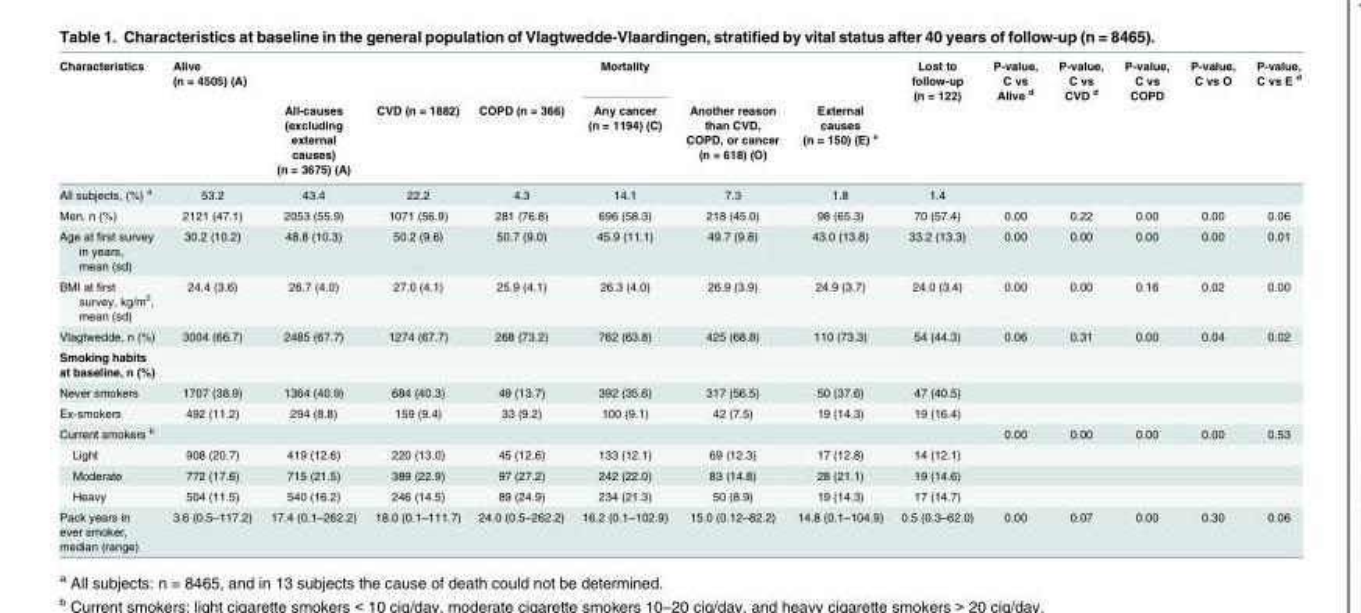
<table><thead><tr><td rowspan="2">Characteristics</td><td rowspan="2">Alive (n = 4505) (A)</td><td rowspan="2">All-causes (excluding external causes) (n = 3675) (A)</td><td rowspan="2">CVD (n = 1882)</td><td rowspan="2">COPD (n = 366)</td><td rowspan="2">Mortality Any cancer (n = 1194) (C)</td><td rowspan="2">Another reason than CVD, COPD, or cancer (n = 618) (O)</td><td rowspan="2">External causes (n = 150) (E) <sup>c</sup></td><td rowspan="2">Lost to follow-up (n = 122)</td><td rowspan="2">P-value, C vs Alive <sup>d</sup></td><td rowspan="2">P-value, C vs CVD <sup>d</sup></td><td rowspan="2">P-value, C vs COPD</td><td rowspan="2">P-value, C vs O</td><td rowspan="2">P-value, C vs E <sup>d</sup></td></tr><tr></tr></thead><tbody><tr><td>All subjects, (%) <sup>a</sup></td><td>53.2</td><td>43.4</td><td>22.2</td><td>4.3</td><td>14.1</td><td>7.3</td><td>1.8</td><td>1.4</td><td></td><td></td><td></td><td></td><td></td></tr><tr><td>Men, n (%)</td><td>2121 (47.1)</td><td>2053 (55.9)</td><td>1071 (56.9)</td><td>281 (76.8)</td><td>696 (58.3)</td><td>218 (45.0)</td><td>98 (65.3)</td><td>70 (57.4)</td><td>0.00</td><td>0.22</td><td>0.00</td><td>0.00</td><td>0.06</td></tr><tr><td>Age at first survey in years, mean (sd)</td><td>30.2 (10.2)</td><td>48.8 (10.3)</td><td>50.2 (9.6)</td><td>50.7 (9.0)</td><td>45.9 (11.1)</td><td>49.7 (9.8)</td><td>43.0 (13.8)</td><td>33.2 (13.3)</td><td>0.00</td><td>0.00</td><td>0.00</td><td>0.00</td><td>0.01</td></tr><tr><td>BMI at first survey, kg/m<sup>2</sup>, mean (sd)</td><td>24.4 (3.6)</td><td>26.7 (4.0)</td><td>27.0 (4.1)</td><td>25.9 (4.1)</td><td>26.3 (4.0)</td><td>26.9 (3.9)</td><td>24.9 (3.7)</td><td>24.0 (3.4)</td><td>0.00</td><td>0.00</td><td>0.16</td><td>0.02</td><td>0.00</td></tr><tr><td>Vlagtwedde, n (%)</td><td>3004 (66.7)</td><td>2485 (67.7)</td><td>1274 (67.7)</td><td>268 (73.2)</td><td>762 (63.8)</td><td>425 (68.8)</td><td>110 (73.3)</td><td>54 (44.3)</td><td>0.06</td><td>0.31</td><td>0.00</td><td>0.04</td><td>0.02</td></tr><tr><td colspan="14">Smoking habits at baseline, n (%)</td></tr><tr><td>Never smokers</td><td>1707 (38.9)</td><td>1364 (40.9)</td><td>684 (40.3)</td><td>49 (13.7)</td><td>392 (35.6)</td><td>317 (56.5)</td><td>50 (37.6)</td><td>47 (40.5)</td><td></td><td></td><td></td><td></td><td></td></tr><tr><td>Ex-smokers</td><td>492 (11.2)</td><td>294 (8.8)</td><td>159 (9.4)</td><td>33 (9.2)</td><td>100 (9.1)</td><td>42 (7.5)</td><td>19 (14.3)</td><td>19 (16.4)</td><td></td><td></td><td></td><td></td><td></td></tr><tr><td>Current smokers <sup>b</sup></td><td></td><td></td><td></td><td></td><td></td><td></td><td></td><td></td><td>0.00</td><td>0.00</td><td>0.00</td><td>0.00</td><td>0.53</td></tr><tr><td>Light</td><td>908 (20.7)</td><td>419 (12.6)</td><td>220 (13.0)</td><td>45 (12.6)</td><td>133 (12.1)</td><td>69 (12.3)</td><td>17 (12.8)</td><td>14 (12.1)</td><td></td><td></td><td></td><td></td><td></td></tr><tr><td>Moderate</td><td>772 (17.6)</td><td>715 (21.5)</td><td>389 (22.9)</td><td>97 (27.2)</td><td>242 (22.0)</td><td>83 (14.8)</td><td>28 (21.1)</td><td>19 (14.6)</td><td></td><td></td><td></td><td></td><td></td></tr><tr><td>Heavy</td><td>504 (11.5)</td><td>540 (16.2)</td><td>246 (14.5)</td><td>89 (24.9)</td><td>234 (21.3)</td><td>50 (8.9)</td><td>19 (14.3)</td><td>17 (14.7)</td><td></td><td></td><td></td><td></td><td></td></tr><tr><td>Pack years in ever smoker, median (range)</td><td>3.6 (0.5–117.2)</td><td>17.4 (0.1–262.2)</td><td>18.0 (0.1–111.7)</td><td>24.0 (0.5–262.2)</td><td>16.2 (0.1–102.9)</td><td>15.0 (0.12–82.2)</td><td>14.8 (0.1–104.9)</td><td>0.5 (0.3–62.0)</td><td>0.00</td><td>0.07</td><td>0.00</td><td>0.30</td><td>0.06</td></tr></tbody></table>